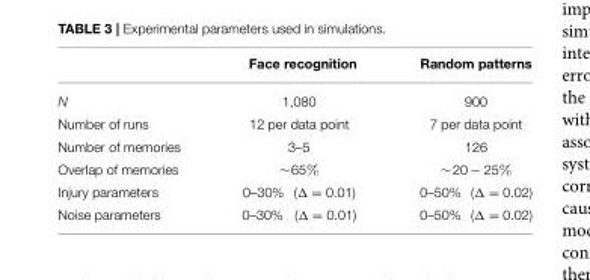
<table><thead><tr><td></td><td>Face recognition</td><td>Random patterns</td></tr></thead><tbody><tr><td>N</td><td>1,080</td><td>900</td></tr><tr><td>Number of runs</td><td>12 per data point</td><td>7 per data point</td></tr><tr><td>Number of memories</td><td>3–5</td><td>126</td></tr><tr><td>Overlap of memories</td><td>∼65%</td><td>∼20 − 25%</td></tr><tr><td>Injury parameters</td><td>0–30% (Δ = 0.01)</td><td>0–50% (Δ = 0.02)</td></tr><tr><td>Noise parameters</td><td>0–30% (Δ = 0.01)</td><td>0–50% (Δ = 0.02)</td></tr></tbody></table>